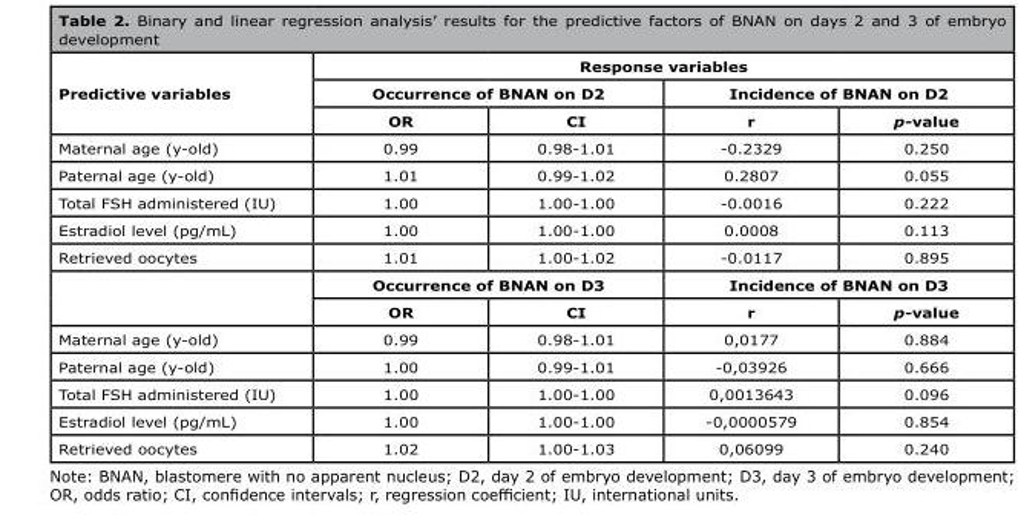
<table><tbody><tr><td rowspan="3">Predictive variables</td><td colspan="4">Response variables</td></tr><tr><td colspan="2">Occurrence of BNAN on D2</td><td colspan="2">Incidence of BNAN on D2</td></tr><tr><td>OR</td><td>CI</td><td>r</td><td>p-value</td></tr><tr><td>Maternal age (y-old)</td><td>0.99</td><td>0.98-1.01</td><td>-0.2329</td><td>0.250</td></tr><tr><td>Paternal age (y-old)</td><td>1.01</td><td>0.99-1.02</td><td>0.2807</td><td>0.055</td></tr><tr><td>Total FSH administered (IU)</td><td>1.00</td><td>1.00-1.00</td><td>-0.0016</td><td>0.222</td></tr><tr><td>Estradiol level (pg/mL)</td><td>1.00</td><td>1.00-1.00</td><td>0.0008</td><td>0.113</td></tr><tr><td rowspan="3">Retrieved oocytes</td><td>1.01</td><td>1.00-1.02</td><td>-0.0117</td><td>0.895</td></tr><tr><td colspan="2">Occurrence of BNAN on D3</td><td colspan="2">Incidence of BNAN on D3</td></tr><tr><td>OR</td><td>CI</td><td>r</td><td>p-value</td></tr><tr><td>Maternal age (y-old)</td><td>0.99</td><td>0.98-1.01</td><td>0,0177</td><td>0.884</td></tr><tr><td>Paternal age (y-old)</td><td>1.00</td><td>0.99-1.01</td><td>-0,03926</td><td>0.666</td></tr><tr><td>Total FSH administered (IU)</td><td>1.00</td><td>1.00-1.00</td><td>0,0013643</td><td>0.096</td></tr><tr><td>Estradiol level (pg/mL)</td><td>1.00</td><td>1.00-1.00</td><td>-0,0000579</td><td>0.854</td></tr><tr><td>Retrieved oocytes</td><td>1.02</td><td>1.00-1.03</td><td>0,06099</td><td>0.240</td></tr></tbody></table>